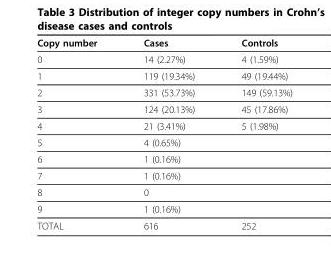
<table><thead><tr><td>Copy number</td><td>Cases</td><td>Controls</td></tr></thead><tbody><tr><td>0</td><td>14 (2.27%)</td><td>4 (1.59%)</td></tr><tr><td>1</td><td>119 (19.34%)</td><td>49 (19.44%)</td></tr><tr><td>2</td><td>331 (53.73%)</td><td>149 (59.13%)</td></tr><tr><td>3</td><td>124 (20.13%)</td><td>45 (17.86%)</td></tr><tr><td>4</td><td>21 (3.41%)</td><td>5 (1.98%)</td></tr><tr><td>5</td><td>4 (0.65%)</td><td></td></tr><tr><td>6</td><td>1 (0.16%)</td><td></td></tr><tr><td>7</td><td>1 (0.16%)</td><td></td></tr><tr><td>8</td><td>0</td><td></td></tr><tr><td>9</td><td>1 (0.16%)</td><td></td></tr><tr><td>TOTAL</td><td>616</td><td>252</td></tr></tbody></table>